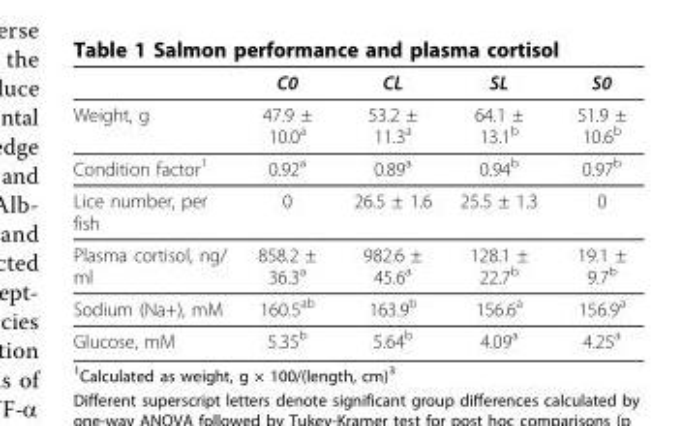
<table><thead><tr><td></td><td>C0</td><td>CL</td><td>SL</td><td>S0</td></tr></thead><tbody><tr><td>Weight, g</td><td>47.9 ± 10.0<sup>a</sup></td><td>53.2 ± 11.3<sup>a</sup></td><td>64.1 ± 13.1<sup>b</sup></td><td>51.9 ± 10.6<sup>b</sup></td></tr><tr><td>Condition factor<sup>1</sup></td><td>0.92<sup>a</sup></td><td>0.89<sup>a</sup></td><td>0.94<sup>b</sup></td><td>0.97<sup>b</sup></td></tr><tr><td>Lice number, per fish</td><td>0</td><td>26.5 ± 1.6</td><td>25.5 ± 1.3</td><td>0</td></tr><tr><td>Plasma cortisol, ng/ ml</td><td>858.2 ± 36.3<sup>a</sup></td><td>982.6 ± 45.6<sup>a</sup></td><td>128.1 ± 22.7<sup>b</sup></td><td>19.1 ± 9.7<sup>b</sup></td></tr><tr><td>Sodium (Na+), mM</td><td>160.5<sup>ab</sup></td><td>163.9<sup>b</sup></td><td>156.6<sup>a</sup></td><td>156.9<sup>a</sup></td></tr><tr><td>Glucose, mM</td><td>5.35<sup>b</sup></td><td>5.64<sup>b</sup></td><td>4.09<sup>a</sup></td><td>4.25<sup>a</sup></td></tr></tbody></table>